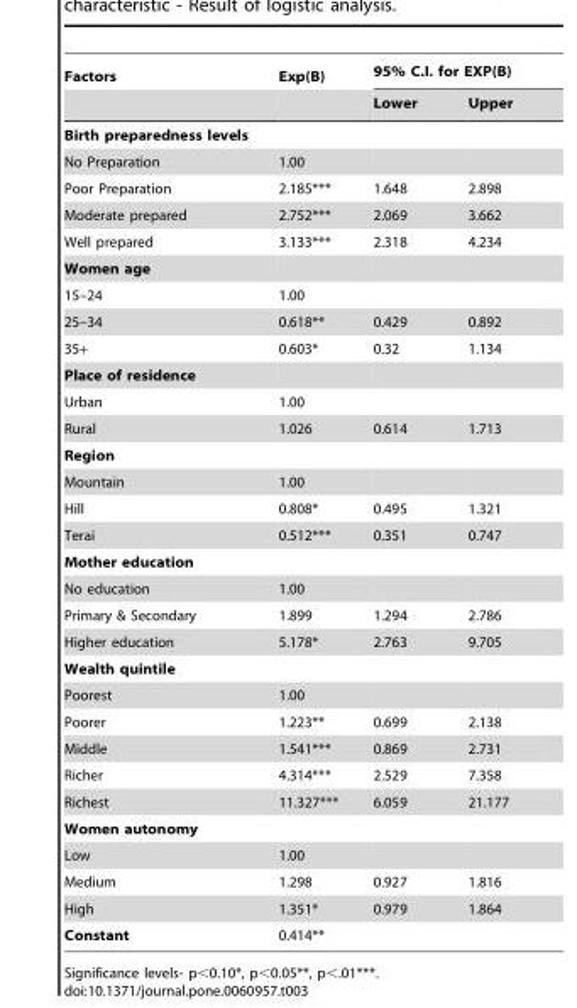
<table><thead><tr><td rowspan="2">Factors</td><td rowspan="2">Exp(B)</td><td colspan="2">95% C.I. for EXP(B)</td></tr><tr><td>Lower</td><td>Upper</td></tr></thead><tbody><tr><td colspan="4">Birth preparedness levels</td></tr><tr><td>No Preparation</td><td>1.00</td><td></td><td></td></tr><tr><td>Poor Preparation</td><td>2.185***</td><td>1.648</td><td>2.898</td></tr><tr><td>Moderate prepared</td><td>2.752***</td><td>2.069</td><td>3.662</td></tr><tr><td>Well prepared</td><td>3.133***</td><td>2.318</td><td>4.234</td></tr><tr><td colspan="4">Women age</td></tr><tr><td>15–24</td><td>1.00</td><td></td><td></td></tr><tr><td>25–34</td><td>0.618**</td><td>0.429</td><td>0.892</td></tr><tr><td>35+</td><td>0.603*</td><td>0.32</td><td>1.134</td></tr><tr><td colspan="4">Place of residence</td></tr><tr><td>Urban</td><td>1.00</td><td></td><td></td></tr><tr><td>Rural</td><td>1.026</td><td>0.614</td><td>1.713</td></tr><tr><td colspan="4">Region</td></tr><tr><td>Mountain</td><td>1.00</td><td></td><td></td></tr><tr><td>Hill</td><td>0.808*</td><td>0.495</td><td>1.321</td></tr><tr><td>Terai</td><td>0.512***</td><td>0.351</td><td>0.747</td></tr><tr><td colspan="4">Mother education</td></tr><tr><td>No education</td><td>1.00</td><td></td><td></td></tr><tr><td>Primary &amp; Secondary</td><td>1.899</td><td>1.294</td><td>2.786</td></tr><tr><td>Higher education</td><td>5.178*</td><td>2.763</td><td>9.705</td></tr><tr><td colspan="4">Wealth quintile</td></tr><tr><td>Poorest</td><td>1.00</td><td></td><td></td></tr><tr><td>Poorer</td><td>1.223**</td><td>0.699</td><td>2.138</td></tr><tr><td>Middle</td><td>1.541***</td><td>0.869</td><td>2.731</td></tr><tr><td>Richer</td><td>4.314***</td><td>2.529</td><td>7.358</td></tr><tr><td>Richest</td><td>11.327***</td><td>6.059</td><td>21.177</td></tr><tr><td colspan="4">Women autonomy</td></tr><tr><td>Low</td><td>1.00</td><td></td><td></td></tr><tr><td>Medium</td><td>1.298</td><td>0.927</td><td>1.816</td></tr><tr><td>High</td><td>1.351*</td><td>0.979</td><td>1.864</td></tr><tr><td>Constant</td><td colspan="3">0.414**</td></tr></tbody></table>